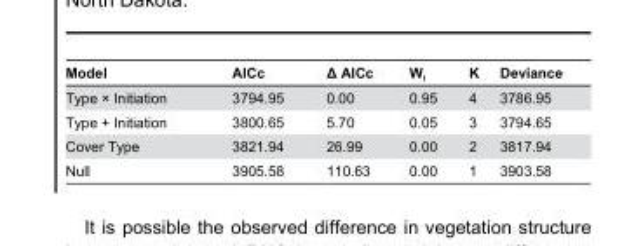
<table><thead><tr><td>Model</td><td>AICc</td><td>Δ AICc</td><td>W<sub>i</sub></td><td>K</td><td>Deviance</td></tr></thead><tbody><tr><td>Type × Initiation</td><td>3794.95</td><td>0.00</td><td>0.95</td><td>4</td><td>3786.95</td></tr><tr><td>Type + Initiation</td><td>3800.65</td><td>5.70</td><td>0.05</td><td>3</td><td>3794.65</td></tr><tr><td>Cover Type</td><td>3821.94</td><td>26.99</td><td>0.00</td><td>2</td><td>3817.94</td></tr><tr><td>Null</td><td>3905.58</td><td>110.63</td><td>0.00</td><td>1</td><td>3903.58</td></tr></tbody></table>